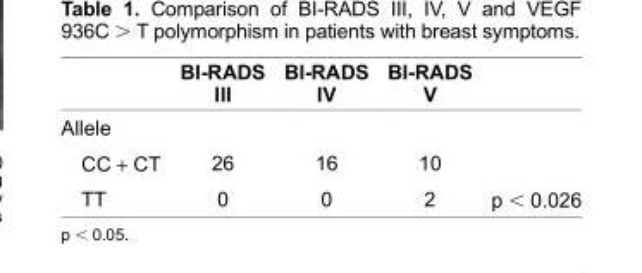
<table><thead><tr><td></td><td>BI-RADs III</td><td>BI-RADs IV</td><td>BI-RADs V</td><td></td></tr></thead><tbody><tr><td colspan="5">Allele</td></tr><tr><td>CC + CT</td><td>26</td><td>16</td><td>10</td><td></td></tr><tr><td>TT</td><td>0</td><td>0</td><td>2</td><td>p &lt; 0.026</td></tr></tbody></table>